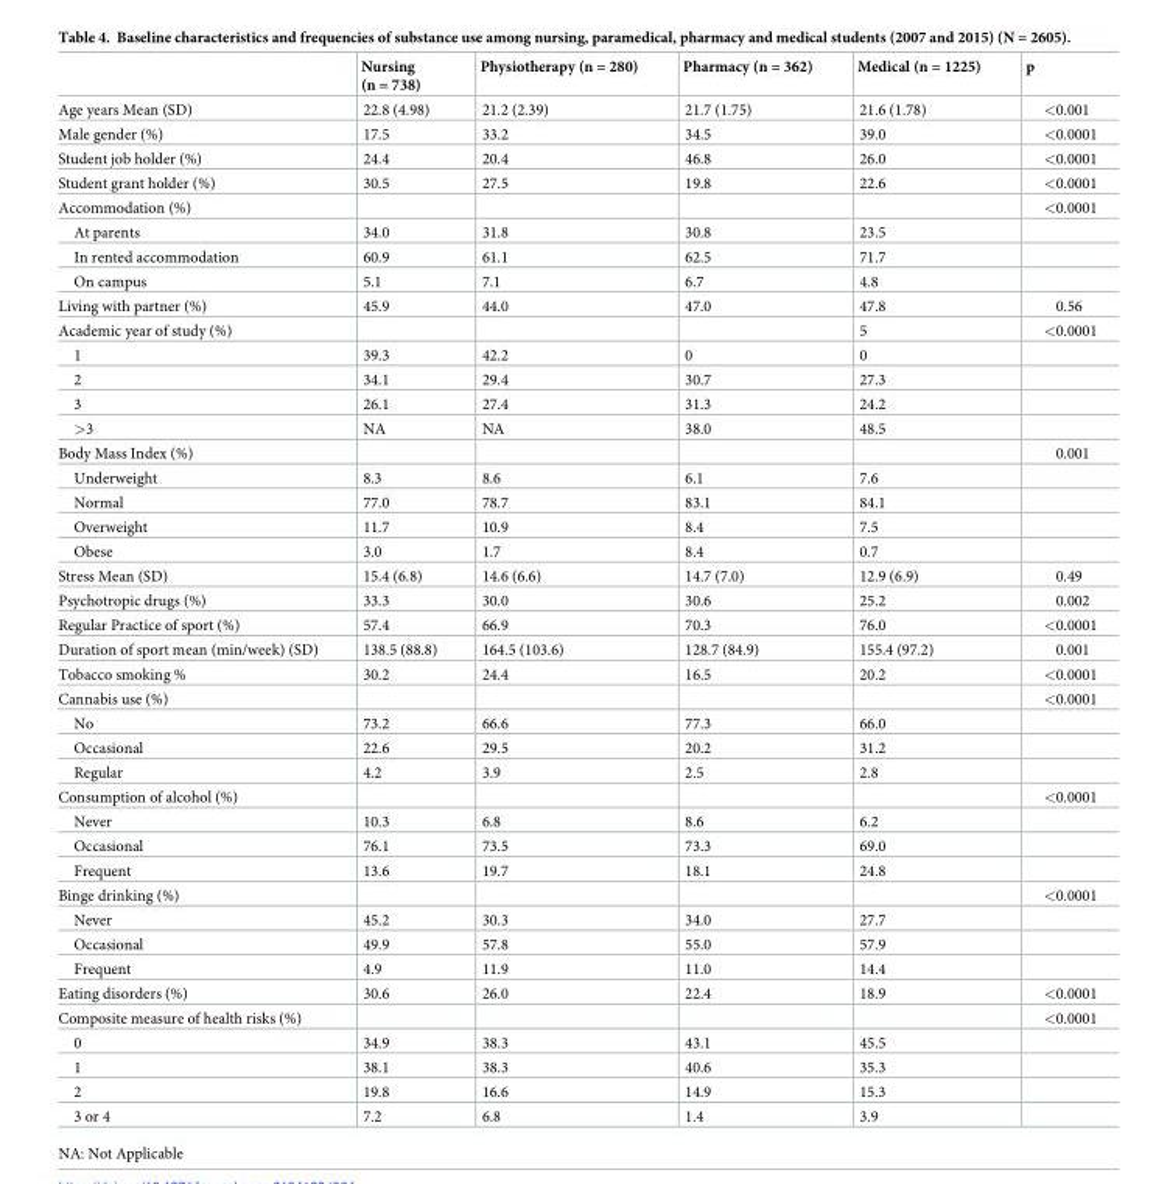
<table><thead><tr><td></td><td>Nursing (n = 738)</td><td>Physiotherapy (n = 280)</td><td>Pharmacy (n = 362)</td><td>Medical (n = 1225)</td><td>p</td></tr></thead><tbody><tr><td>Age years Mean (SD)</td><td>22.8 (4.98)</td><td>21.2 (2.39)</td><td>21.7 (1.75)</td><td>21.6 (1.78)</td><td>&lt;0.001</td></tr><tr><td>Male gender (%)</td><td>17.5</td><td>33.2</td><td>34.5</td><td>39.0</td><td>&lt;0.0001</td></tr><tr><td>Student job holder (%)</td><td>24.4</td><td>20.4</td><td>46.8</td><td>26.0</td><td>&lt;0.0001</td></tr><tr><td>Student grant holder (%)</td><td>30.5</td><td>27.5</td><td>19.8</td><td>22.6</td><td>&lt;0.0001</td></tr><tr><td>Accommodation (%)</td><td></td><td></td><td></td><td></td><td>&lt;0.0001</td></tr><tr><td>At parents</td><td>34.0</td><td>31.8</td><td>30.8</td><td>23.5</td><td></td></tr><tr><td>In rented accommodation</td><td>60.9</td><td>61.1</td><td>62.5</td><td>71.7</td><td></td></tr><tr><td>On campus</td><td>5.1</td><td>7.1</td><td>6.7</td><td>4.8</td><td></td></tr><tr><td>Living with partner (%)</td><td>45.9</td><td>44.0</td><td>47.0</td><td>47.8</td><td>0.56</td></tr><tr><td>Academic year of study (%)</td><td></td><td></td><td></td><td>5</td><td>&lt;0.0001</td></tr><tr><td>1</td><td>39.3</td><td>42.2</td><td>0</td><td>0</td><td></td></tr><tr><td>2</td><td>34.1</td><td>29.4</td><td>30.7</td><td>27.3</td><td></td></tr><tr><td>3</td><td>26.1</td><td>27.4</td><td>31.3</td><td>24.2</td><td></td></tr><tr><td>&gt;3</td><td>NA</td><td>NA</td><td>38.0</td><td>48.5</td><td></td></tr><tr><td>Body Mass Index (%)</td><td></td><td></td><td></td><td></td><td>0.001</td></tr><tr><td>Underweight</td><td>8.3</td><td>8.6</td><td>6.1</td><td>7.6</td><td></td></tr><tr><td>Normal</td><td>77.0</td><td>78.7</td><td>83.1</td><td>84.1</td><td></td></tr><tr><td>Overweight</td><td>11.7</td><td>10.9</td><td>8.4</td><td>7.5</td><td></td></tr><tr><td>Obese</td><td>3.0</td><td>1.7</td><td>8.4</td><td>0.7</td><td></td></tr><tr><td>Stress Mean (SD)</td><td>15.4 (6.8)</td><td>14.6 (6.6)</td><td>14.7 (7.0)</td><td>12.9 (6.9)</td><td>0.49</td></tr><tr><td>Psychotropic drugs (%)</td><td>33.3</td><td>30.0</td><td>30.6</td><td>25.2</td><td>0.002</td></tr><tr><td>Regular Practice of sport (%)</td><td>57.4</td><td>66.9</td><td>70.3</td><td>76.0</td><td>&lt;0.0001</td></tr><tr><td>Duration of sport mean (min/week) (SD)</td><td>138.5 (88.8)</td><td>164.5 (103.6)</td><td>128.7 (84.9)</td><td>155.4 (97.2)</td><td>0.001</td></tr><tr><td>Tobacco smoking %</td><td>30.2</td><td>24.4</td><td>16.5</td><td>20.2</td><td>&lt;0.0001</td></tr><tr><td>Cannabis use (%)</td><td></td><td></td><td></td><td></td><td>&lt;0.0001</td></tr><tr><td>No</td><td>73.2</td><td>66.6</td><td>77.3</td><td>66.0</td><td></td></tr><tr><td>Occasional</td><td>22.6</td><td>29.5</td><td>20.2</td><td>31.2</td><td></td></tr><tr><td>Regular</td><td>4.2</td><td>3.9</td><td>2.5</td><td>2.8</td><td></td></tr><tr><td>Consumption of alcohol (%)</td><td></td><td></td><td></td><td></td><td>&lt;0.0001</td></tr><tr><td>Never</td><td>10.3</td><td>6.8</td><td>8.6</td><td>6.2</td><td></td></tr><tr><td>Occasional</td><td>76.1</td><td>73.5</td><td>73.3</td><td>69.0</td><td></td></tr><tr><td>Frequent</td><td>13.6</td><td>19.7</td><td>18.1</td><td>24.8</td><td></td></tr><tr><td>Binge drinking (%)</td><td></td><td></td><td></td><td></td><td>&lt;0.0001</td></tr><tr><td>Never</td><td>45.2</td><td>30.3</td><td>34.0</td><td>27.7</td><td></td></tr><tr><td>Occasional</td><td>49.9</td><td>57.8</td><td>55.0</td><td>57.9</td><td></td></tr><tr><td>Frequent</td><td>4.9</td><td>11.9</td><td>11.0</td><td>14.4</td><td></td></tr><tr><td>Eating disorders (%)</td><td>30.6</td><td>26.0</td><td>22.4</td><td>18.9</td><td>&lt;0.0001</td></tr><tr><td>Composite measure of health risks (%)</td><td></td><td></td><td></td><td></td><td>&lt;0.0001</td></tr><tr><td>0</td><td>34.9</td><td>38.3</td><td>43.1</td><td>45.5</td><td></td></tr><tr><td>1</td><td>38.1</td><td>38.3</td><td>40.6</td><td>35.3</td><td></td></tr><tr><td>2</td><td>19.8</td><td>16.6</td><td>14.9</td><td>15.3</td><td></td></tr><tr><td>3 or 4</td><td>7.2</td><td>6.8</td><td>1.4</td><td>3.9</td><td></td></tr></tbody></table>